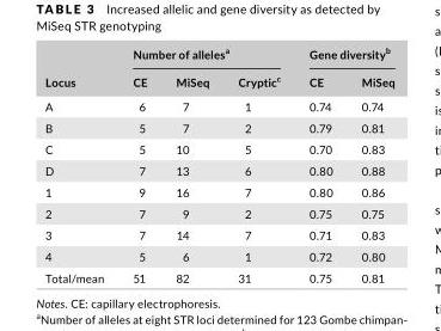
<table><thead><tr><td rowspan="2">Locus</td><td colspan="3">Number of alleles<sup>a</sup></td><td colspan="2">Gene diversity<sup>b</sup></td></tr><tr><td>CE</td><td>MiSeq</td><td>Cryptic<sup>c</sup></td><td>CE</td><td>MiSeq</td></tr></thead><tbody><tr><td>A</td><td>6</td><td>7</td><td>1</td><td>0.74</td><td>0.74</td></tr><tr><td>B</td><td>5</td><td>7</td><td>2</td><td>0.79</td><td>0.81</td></tr><tr><td>C</td><td>5</td><td>10</td><td>5</td><td>0.70</td><td>0.83</td></tr><tr><td>D</td><td>7</td><td>13</td><td>6</td><td>0.80</td><td>0.88</td></tr><tr><td>1</td><td>9</td><td>16</td><td>7</td><td>0.80</td><td>0.86</td></tr><tr><td>2</td><td>7</td><td>9</td><td>2</td><td>0.75</td><td>0.75</td></tr><tr><td>3</td><td>7</td><td>14</td><td>7</td><td>0.71</td><td>0.83</td></tr><tr><td>4</td><td>5</td><td>6</td><td>1</td><td>0.72</td><td>0.80</td></tr><tr><td>Total/mean</td><td>51</td><td>82</td><td>31</td><td>0.75</td><td>0.81</td></tr></tbody></table>